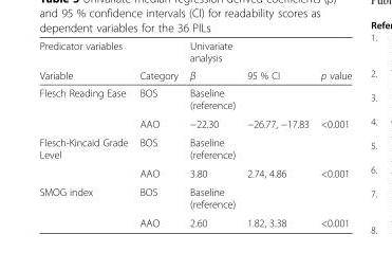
<table><thead><tr><td rowspan="2">Predicator variables Variable</td><td rowspan="2">Category</td><td rowspan="2">Univariate analysis β</td><td rowspan="2">95 % CI</td><td rowspan="2">p value</td></tr><tr></tr></thead><tbody><tr><td rowspan="2">Flesch Reading Ease</td><td>BOS</td><td>Baseline (reference)</td><td></td><td></td></tr><tr><td>AAO</td><td>−22.30</td><td>−26.77, −17.83</td><td>&lt;0.001</td></tr><tr><td rowspan="2">Flesch-Kincaid Grade Level</td><td>BOS</td><td>Baseline (reference)</td><td></td><td></td></tr><tr><td>AAO</td><td>3.80</td><td>2.74, 4.86</td><td>&lt;0.001</td></tr><tr><td rowspan="2">SMOG index</td><td>BOS</td><td>Baseline (reference)</td><td></td><td></td></tr><tr><td>AAO</td><td>2.60</td><td>1.82, 3.38</td><td>&lt;0.001</td></tr></tbody></table>